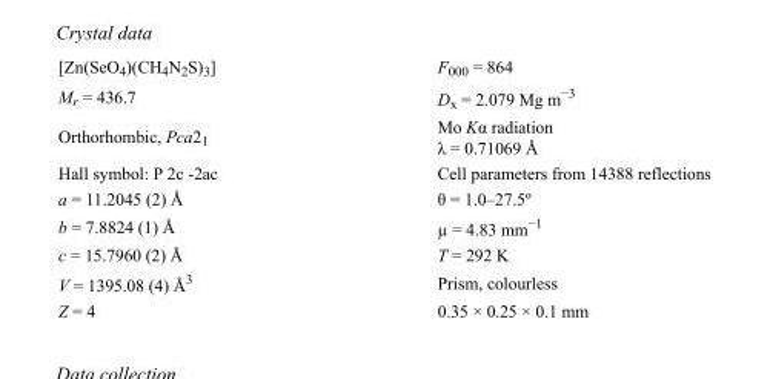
<table><tbody><tr><td>[Zn(SeO<sub>4</sub>)(CH<sub>4</sub>N<sub>2</sub>S)<sub>3</sub>]</td><td>F<sub>000</sub> = 864</td></tr><tr><td>M<sub>r</sub> = 436.7</td><td>D<sub>x</sub> = 2.079 Mg m<sup>−3</sup></td></tr><tr><td>Orthorhombic, Pca2<sub>1</sub></td><td>Mo Kα radiation λ = 0.71069 Å</td></tr><tr><td>Hall symbol: P 2c -2ac</td><td>Cell parameters from 14388 reflections</td></tr><tr><td>a = 11.2045 (2) Å</td><td>θ = 1.0–27.5º</td></tr><tr><td>b = 7.8824 (1) Å</td><td>µ = 4.83 mm<sup>−1</sup></td></tr><tr><td>c = 15.7960 (2) Å</td><td>T = 292 K</td></tr><tr><td>V = 1395.08 (4) Å<sup>3</sup></td><td>Prism, colourless</td></tr><tr><td>Z = 4</td><td>0.35 × 0.25 × 0.1 mm</td></tr></tbody></table>